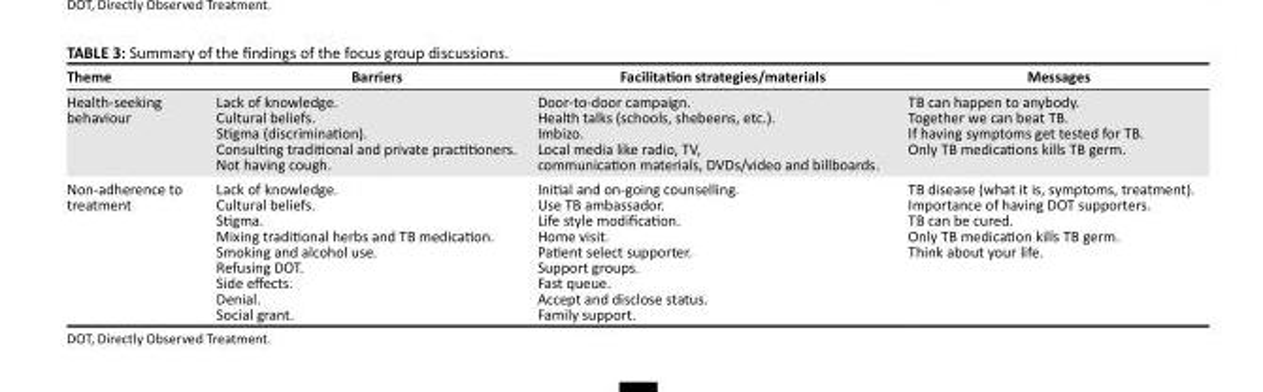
<table><thead><tr><td>Theme</td><td>Barriers</td><td>Facilitation strategies/materials</td><td>Messages</td></tr></thead><tbody><tr><td>Health-seeking behaviour</td><td>Lack of knowledge. Cultural beliefs. Stigma (discrimination). Consulting traditional and private practitioners. Not having cough.</td><td>Door-to-door campaign. Health talks (schools, shebeens, etc.). Imbizo. Local media like radio, TV, communication materials, DVDs/video and billboards.</td><td>TB can happen to anybody. Together we can beat TB. If having symptoms get tested for TB. Only TB medications kills TB germ.</td></tr><tr><td>Non-adherence to treatment</td><td>Lack of knowledge. Cultural beliefs. Stigma. Mixing traditional herbs and TB medication. Smoking and alcohol use. Refusing DOT. Side effects. Denial. Social grant.</td><td>Initial and on-going counselling. Use TB ambassador. Life style modification. Home visit. Patient select supporter. Support groups. Fast queue. Accept and disclose status. Family support.</td><td>TB disease (what it is, symptoms, treatment). Importance of having DOT supporters. TB can be cured. Only TB medication kills TB germ. Think about your life.</td></tr></tbody></table>